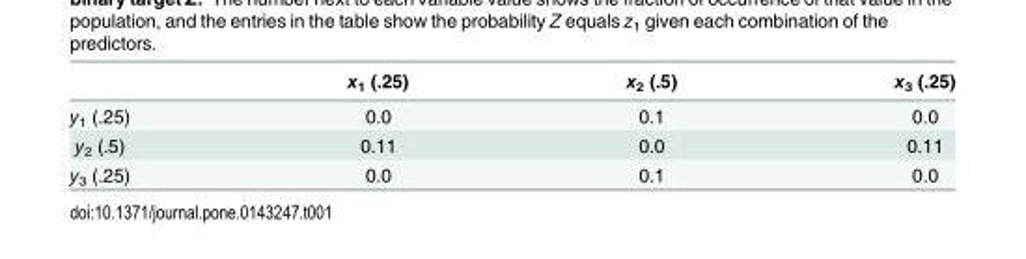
<table><thead><tr><td></td><td>x<sub>1</sub> (.25)</td><td>x<sub>2</sub> (.5)</td><td>x<sub>3</sub> (.25)</td></tr></thead><tbody><tr><td>y<sub>1</sub> (.25)</td><td>0.0</td><td>0.1</td><td>0.0</td></tr><tr><td>y<sub>2</sub> (.5)</td><td>0.11</td><td>0.0</td><td>0.11</td></tr><tr><td>y<sub>3</sub> (.25)</td><td>0.0</td><td>0.1</td><td>0.0</td></tr></tbody></table>